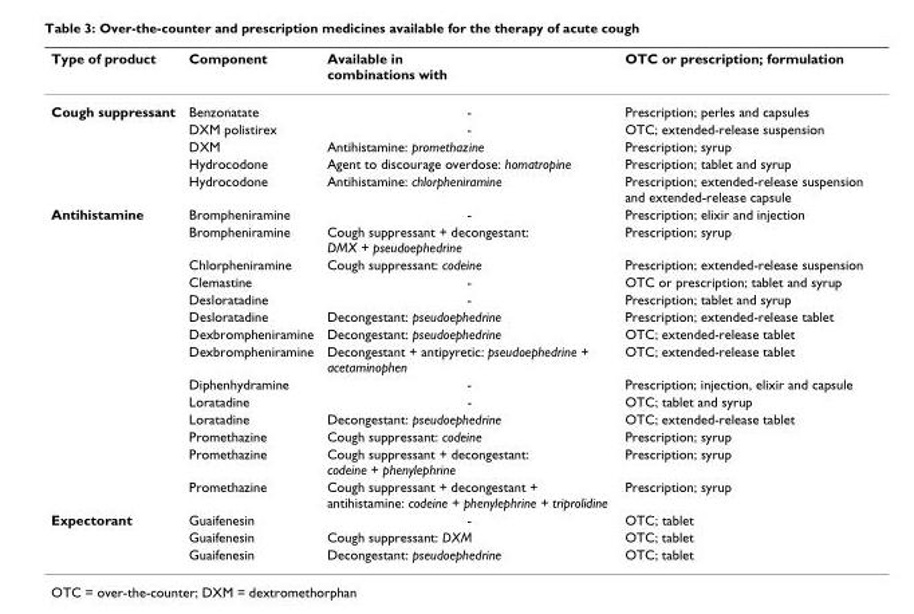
<table><thead><tr><td>Type of product</td><td>Component</td><td>Available in combinations with</td><td>OTC or prescription; formulation</td></tr></thead><tbody><tr><td rowspan="5">Cough suppressant</td><td>Benzonatate</td><td>-</td><td>Prescription; perles and capsules</td></tr><tr><td>DXM polistirex</td><td>-</td><td>OTC; extended-release suspension</td></tr><tr><td>DXM</td><td>Antihistamine: promethazine</td><td>Prescription; syrup</td></tr><tr><td>Hydrocodone</td><td>Agent to discourage overdose: homatropine</td><td>Prescription; tablet and syrup</td></tr><tr><td>Hydrocodone</td><td>Antihistamine: chlorpheniramine</td><td>Prescription; extended-release suspension and extended-release capsule</td></tr><tr><td rowspan="14">Antihistamine</td><td>Brompheniramine</td><td>-</td><td>Prescription; elixir and injection</td></tr><tr><td>Brompheniramine</td><td>Cough suppressant + decongestant: DMX + pseudoephedrine</td><td>Prescription; syrup</td></tr><tr><td>Chlorpheniramine</td><td>Cough suppressant: codeine</td><td>Prescription; extended-release suspension</td></tr><tr><td>Clemastine</td><td>-</td><td>OTC or prescription; tablet and syrup</td></tr><tr><td>Desloratadine</td><td>-</td><td>Prescription; tablet and syrup</td></tr><tr><td>Desloratadine</td><td>Decongestant: pseudoephedrine</td><td>Prescription; extended-release tablet</td></tr><tr><td>Dexbrompheniramine</td><td>Decongestant: pseudoephedrine</td><td>OTC; extended-release tablet</td></tr><tr><td>Dexbrompheniramine</td><td>Decongestant + antipyretic: pseudoephedrine + acetaminophen</td><td>OTC; extended-release tablet</td></tr><tr><td>Diphenhydramine</td><td>-</td><td>Prescription; injection, elixir and capsule</td></tr><tr><td>Loratadine</td><td>-</td><td>OTC; tablet and syrup</td></tr><tr><td>Loratadine</td><td>Decongestant: pseudoephedrine</td><td>OTC; extended-release tablet</td></tr><tr><td>Promethazine</td><td>Cough suppressant: codeine</td><td>Prescription; syrup</td></tr><tr><td>Promethazine</td><td>Cough suppressant + decongestant: codeine + phenylephrine</td><td>Prescription; syrup</td></tr><tr><td>Promethazine</td><td>Cough suppressant + decongestant + antihistamine: codeine + phenylephrine + triprolidine</td><td>Prescription; syrup</td></tr><tr><td rowspan="3">Expectorant</td><td>Guaifenesin</td><td>-</td><td>OTC; tablet</td></tr><tr><td>Guaifenesin</td><td>Cough suppressant: DXM</td><td>OTC; tablet</td></tr><tr><td>Guaifenesin</td><td>Decongestant: pseudoephedrine</td><td>OTC; tablet</td></tr></tbody></table>